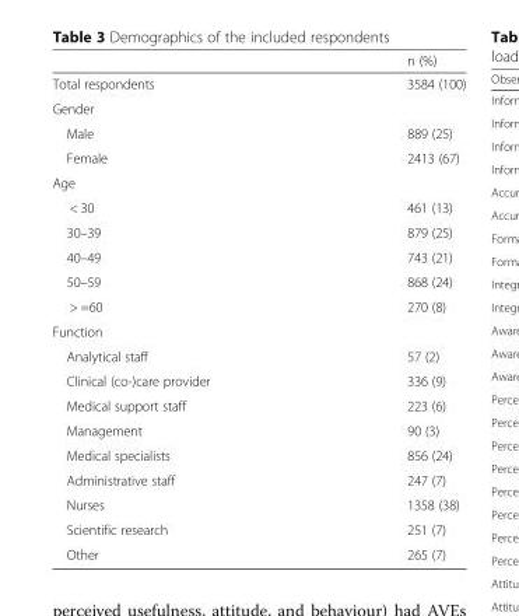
<table><thead><tr><td></td><td>n (%)</td></tr></thead><tbody><tr><td>Total respondents</td><td>3584 (100)</td></tr><tr><td colspan="2">Gender</td></tr><tr><td>Male</td><td>889 (25)</td></tr><tr><td>Female</td><td>2413 (67)</td></tr><tr><td colspan="2">Age</td></tr><tr><td>&lt; 30</td><td>461 (13)</td></tr><tr><td>30–39</td><td>879 (25)</td></tr><tr><td>40–49</td><td>743 (21)</td></tr><tr><td>50–59</td><td>868 (24)</td></tr><tr><td>&gt; =60</td><td>270 (8)</td></tr><tr><td colspan="2">Function</td></tr><tr><td>Analytical staff</td><td>57 (2)</td></tr><tr><td>Clinical (co-)care provider</td><td>336 (9)</td></tr><tr><td>Medical support staff</td><td>223 (6)</td></tr><tr><td>Management</td><td>90 (3)</td></tr><tr><td>Medical specialists</td><td>856 (24)</td></tr><tr><td>Administrative staff</td><td>247 (7)</td></tr><tr><td>Nurses</td><td>1358 (38)</td></tr><tr><td>Scientific research</td><td>251 (7)</td></tr><tr><td>Other</td><td>265 (7)</td></tr></tbody></table>